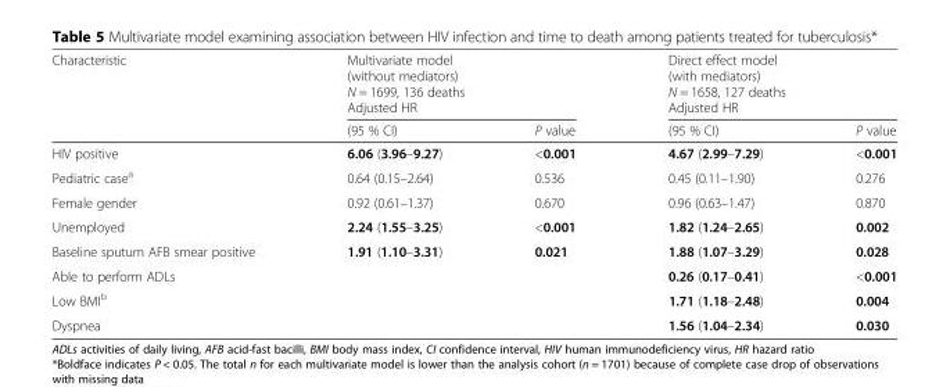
<table><thead><tr><td rowspan="5">Characteristic</td><td rowspan="4" colspan="2">Multivariate model (without mediators) N = 1699, 136 deaths Adjusted HR</td><td rowspan="4" colspan="2">Direct effect model (with mediators) N = 1658, 127 deaths Adjusted HR</td></tr><tr></tr><tr></tr><tr></tr><tr><td>(95 % CI)</td><td>P value</td><td>(95 % CI)</td><td>P value</td></tr></thead><tbody><tr><td>HIV positive</td><td>6.06 (3.96–9.27)</td><td>&lt;0.001</td><td>4.67 (2.99–7.29)</td><td>&lt;0.001</td></tr><tr><td>Pediatric case<sup>a</sup></td><td>0.64 (0.15–2.64)</td><td>0.536</td><td>0.45 (0.11–1.90)</td><td>0.276</td></tr><tr><td>Female gender</td><td>0.92 (0.61–1.37)</td><td>0.670</td><td>0.96 (0.63–1.47)</td><td>0.870</td></tr><tr><td>Unemployed</td><td>2.24 (1.55–3.25)</td><td>&lt;0.001</td><td>1.82 (1.24–2.65)</td><td>0.002</td></tr><tr><td>Baseline sputum AFB smear positive</td><td>1.91 (1.10–3.31)</td><td>0.021</td><td>1.88 (1.07–3.29)</td><td>0.028</td></tr><tr><td>Able to perform ADLs</td><td></td><td></td><td>0.26 (0.17–0.41)</td><td>&lt;0.001</td></tr><tr><td>Low BMI<sup>b</sup></td><td></td><td></td><td>1.71 (1.18–2.48)</td><td>0.004</td></tr><tr><td>Dyspnea</td><td></td><td></td><td>1.56 (1.04–2.34)</td><td>0.030</td></tr></tbody></table>